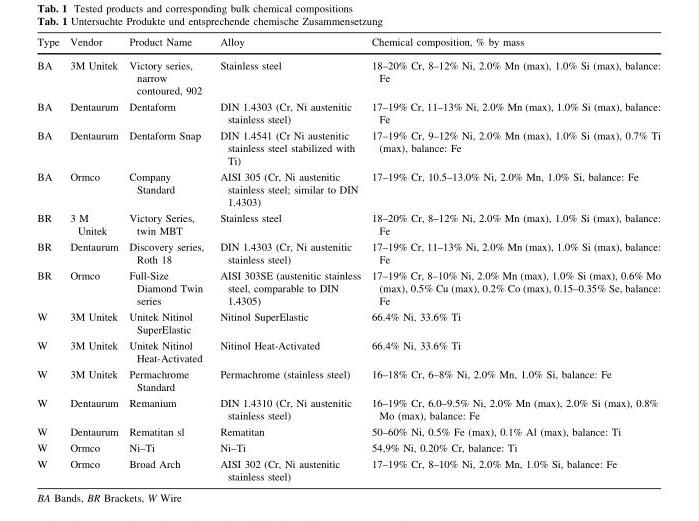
<table><thead><tr><td>Type</td><td>Vendor</td><td>Product Name</td><td>Alloy</td><td>Chemical composition, % by mass</td></tr></thead><tbody><tr><td>BA</td><td>3M Unitek</td><td>Victory series, narrow contoured, 902</td><td>Stainless steel</td><td>18–20% Cr, 8–12% Ni, 2.0% Mn (max), 1.0% Si (max), balance: Fe</td></tr><tr><td>BA</td><td>Dentaurum</td><td>Dentaform</td><td>DIN 1.4303 (Cr, Ni austenitic stainless steel)</td><td>17–19% Cr, 11–13% Ni, 2.0% Mn (max), 1.0% Si (max), balance: Fe</td></tr><tr><td>BA</td><td>Dentaurum</td><td>Dentaform Snap</td><td>DIN 1.4541 (Cr Ni austenitic stainless steel stabilized with Ti)</td><td>17–19% Cr, 9–12% Ni, 2.0% Mn (max), 1.0% Si (max), 0.7% Ti (max), balance: Fe</td></tr><tr><td>BA</td><td>Ormco</td><td>Company Standard</td><td>AISI 305 (Cr, Ni austenitic stainless steel; similar to DIN 1.4303)</td><td>17–19% Cr, 10.5–13.0% Ni, 2.0% Mn, 1.0% Si, balance: Fe</td></tr><tr><td>BR</td><td>3 M Unitek</td><td>Victory Series, twin MBT</td><td>Stainless steel</td><td>18–20% Cr, 8–12% Ni, 2.0% Mn (max), 1.0% Si (max), balance: Fe</td></tr><tr><td>BR</td><td>Dentaurum</td><td>Discovery series, Roth 18</td><td>DIN 1.4303 (Cr, Ni austenitic stainless steel)</td><td>17–19% Cr, 11–13% Ni, 2.0% Mn (max), 1.0% Si (max), balance: Fe</td></tr><tr><td>BR</td><td>Ormco</td><td>Full-Size Diamond Twin series</td><td>AISI 303SE (austenitic stainless steel, comparable to DIN 1.4305)</td><td>17–19% Cr, 8–10% Ni, 2.0% Mn (max), 1.0% Si (max), 0.6% Mo (max), 0.5% Cu (max), 0.2% Co (max), 0.15–0.35% Se, balance: Fe</td></tr><tr><td>W</td><td>3M Unitek</td><td>Unitek Nitinol SuperElastic</td><td>Nitinol SuperElastic</td><td>66.4% Ni, 33.6% Ti</td></tr><tr><td>W</td><td>3M Unitek</td><td>Unitek Nitinol Heat-Activated</td><td>Nitinol Heat-Activated</td><td>66.4% Ni, 33.6% Ti</td></tr><tr><td>W</td><td>3M Unitek</td><td>Permachrome Standard</td><td>Permachrome (stainless steel)</td><td>16–18% Cr, 6–8% Ni, 2.0% Mn, 1.0% Si, balance: Fe</td></tr><tr><td>W</td><td>Dentaurum</td><td>Remanium</td><td>DIN 1.4310 (Cr, Ni austenitic stainless steel)</td><td>16–19% Cr, 6.0–9.5% Ni, 2.0% Mn (max), 2.0% Si (max), 0.8% Mo (max), balance: Fe</td></tr><tr><td>W</td><td>Dentaurum</td><td>Rematitan sl</td><td>Rematitan</td><td>50–60% Ni, 0.5% Fe (max), 0.1% Al (max), balance: Ti</td></tr><tr><td>W</td><td>Ormco</td><td>Ni–Ti</td><td>Ni–Ti</td><td>54,9% Ni, 0.20% Cr, balance: Ti</td></tr><tr><td>W</td><td>Ormco</td><td>Broad Arch</td><td>AISI 302 (Cr, Ni austenitic stainless steel)</td><td>17–19% Cr, 8–10% Ni, 2.0% Mn, 1.0% Si, balance: Fe</td></tr></tbody></table>